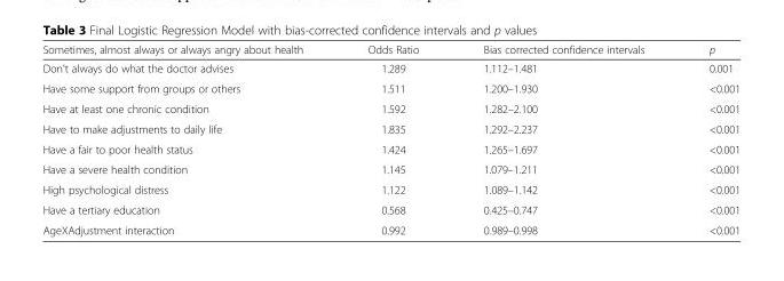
<table><thead><tr><td>Sometimes, almost always or always angry about health</td><td>Odds Ratio</td><td>Bias corrected confidence intervals</td><td>p</td></tr></thead><tbody><tr><td>Don&#x27;t always do what the doctor advises</td><td>1.289</td><td>1.112–1.481</td><td>0.001</td></tr><tr><td>Have some support from groups or others</td><td>1.511</td><td>1.200–1.930</td><td>&lt;0.001</td></tr><tr><td>Have at least one chronic condition</td><td>1.592</td><td>1.282–2.100</td><td>&lt;0.001</td></tr><tr><td>Have to make adjustments to daily life</td><td>1.835</td><td>1.292–2.237</td><td>&lt;0.001</td></tr><tr><td>Have a fair to poor health status</td><td>1.424</td><td>1.265–1.697</td><td>&lt;0.001</td></tr><tr><td>Have a severe health condition</td><td>1.145</td><td>1.079–1.211</td><td>&lt;0.001</td></tr><tr><td>High psychological distress</td><td>1.122</td><td>1.089–1.142</td><td>&lt;0.001</td></tr><tr><td>Have a tertiary education</td><td>0.568</td><td>0.425–0.747</td><td>&lt;0.001</td></tr><tr><td>AgeXAdjustment interaction</td><td>0.992</td><td>0.989–0.998</td><td>&lt;0.001</td></tr></tbody></table>